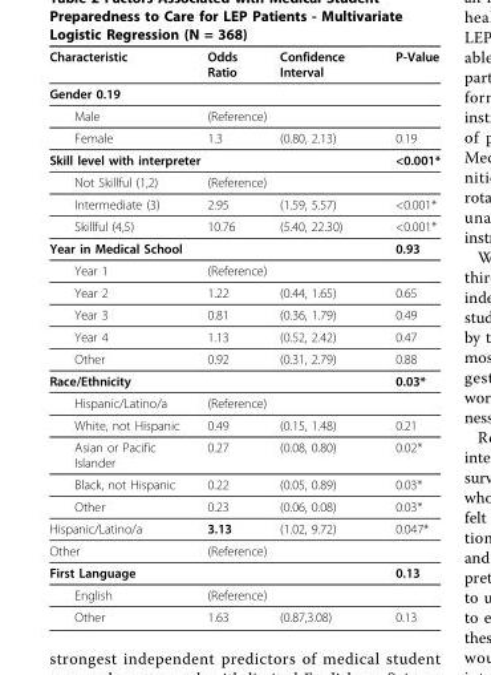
<table><thead><tr><td>Characteristic</td><td>Odds Ratio</td><td>Confidence Interval</td><td>P-Value</td></tr></thead><tbody><tr><td colspan="4">Gender 0.19</td></tr><tr><td>Male</td><td>(Reference)</td><td></td><td></td></tr><tr><td>Female</td><td>1.3</td><td>(0.80, 2.13)</td><td>0.19</td></tr><tr><td colspan="3">Skill level with interpreter</td><td>&lt;0.001*</td></tr><tr><td>Not Skillful (1,2)</td><td>(Reference)</td><td></td><td></td></tr><tr><td>Intermediate (3)</td><td>2.95</td><td>(1.59, 5.57)</td><td>&lt;0.001*</td></tr><tr><td>Skillful (4,5)</td><td>10.76</td><td>(5.40, 22.30)</td><td>&lt;0.001*</td></tr><tr><td colspan="3">Year in Medical School</td><td>0.93</td></tr><tr><td>Year 1</td><td>(Reference)</td><td></td><td></td></tr><tr><td>Year 2</td><td>1.22</td><td>(0.44, 1.65)</td><td>0.65</td></tr><tr><td>Year 3</td><td>0.81</td><td>(0.36, 1.79)</td><td>0.49</td></tr><tr><td>Year 4</td><td>1.13</td><td>(0.52, 2.42)</td><td>0.47</td></tr><tr><td>Other</td><td>0.92</td><td>(0.31, 2.79)</td><td>0.88</td></tr><tr><td colspan="3">Race/Ethnicity</td><td>0.03*</td></tr><tr><td>Hispanic/Latino/a</td><td>(Reference)</td><td></td><td></td></tr><tr><td>White, not Hispanic</td><td>0.49</td><td>(0.15, 1.48)</td><td>0.21</td></tr><tr><td>Asian or Pacific Islander</td><td>0.27</td><td>(0.08, 0.80)</td><td>0.02*</td></tr><tr><td>Black, not Hispanic</td><td>0.22</td><td>(0.05, 0.89)</td><td>0.03*</td></tr><tr><td>Other</td><td>0.23</td><td>(0.06, 0.08)</td><td>0.03*</td></tr><tr><td>Hispanic/Latino/a</td><td>3.13</td><td>(1.02, 9.72)</td><td>0.047*</td></tr><tr><td>Other</td><td>(Reference)</td><td></td><td></td></tr><tr><td colspan="3">First Language</td><td>0.13</td></tr><tr><td>English</td><td>(Reference)</td><td></td><td></td></tr><tr><td>Other</td><td>1.63</td><td>(0.87,3.08)</td><td>0.13</td></tr></tbody></table>